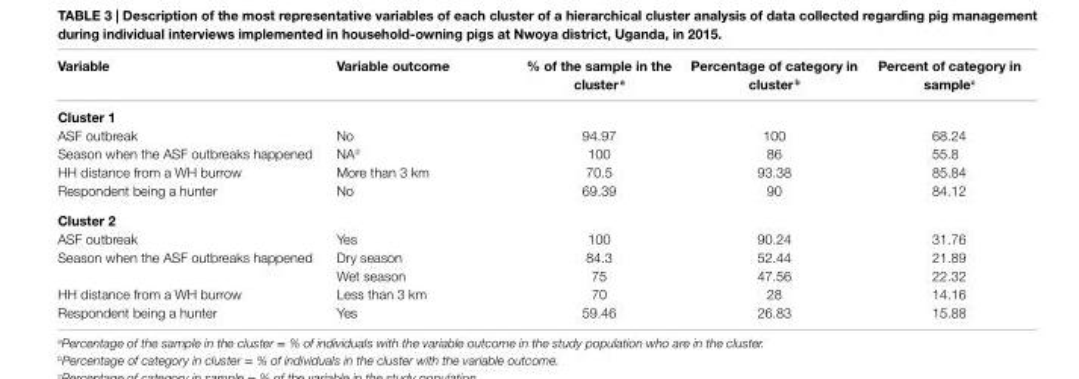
<table><thead><tr><td>Variable</td><td>Variable outcome</td><td>% of the sample in the cluster a</td><td>Percentage of category in cluster b</td><td>Percent of category in sample<sup>c</sup></td></tr></thead><tbody><tr><td colspan="5">cluster 1</td></tr><tr><td>ASF outbreak</td><td>No</td><td>94.97</td><td>100</td><td>68.24</td></tr><tr><td>Season when the ASF outbreaks happened</td><td>NA<sup>d</sup></td><td>100</td><td>86</td><td>55.8</td></tr><tr><td>HH distance from a WH burrow</td><td>More than 3 km</td><td>70.5</td><td>93.38</td><td>85.84</td></tr><tr><td>Respondent being a hunter</td><td>No</td><td>69.39</td><td>90</td><td>84.12</td></tr><tr><td colspan="5">cluster 2</td></tr><tr><td>ASF outbreak</td><td>Yes</td><td>100</td><td>90.24</td><td>31.76</td></tr><tr><td rowspan="2">Season when the ASF outbreaks happened</td><td>Dry season</td><td>84.3</td><td>52.44</td><td>21.89</td></tr><tr><td>Wet season</td><td>75</td><td>47.56</td><td>22.32</td></tr><tr><td>HH distance from a WH burrow</td><td>Less than 3 km</td><td>70</td><td>28</td><td>14.16</td></tr><tr><td>Respondent being a hunter</td><td>Yes</td><td>59.46</td><td>26.83</td><td>15.88</td></tr></tbody></table>